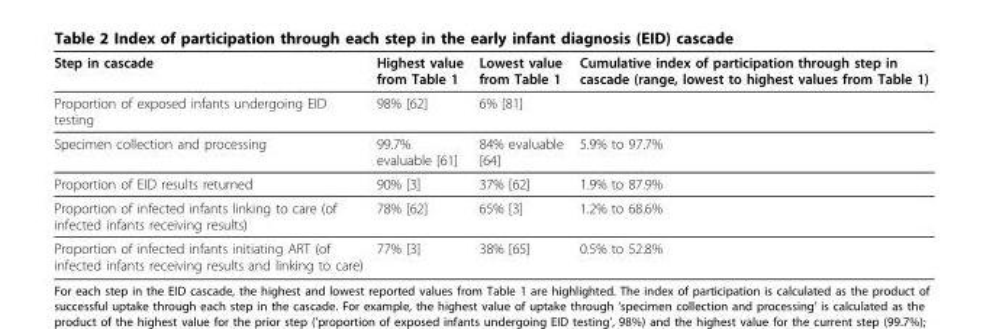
<table><thead><tr><td>Step in cascade</td><td>Highest value from Table 1</td><td>Lowest value from Table 1</td><td>Cumulative index of participation through step in cascade (range, lowest to highest values from Table 1)</td></tr></thead><tbody><tr><td>Proportion of exposed infants undergoing EID testing</td><td>98% [62]</td><td>6% [81]</td><td></td></tr><tr><td>Specimen collection and processing</td><td>99.7% evaluable [61]</td><td>84% evaluable [64]</td><td>5.9% to 97.7%</td></tr><tr><td>Proportion of EID results returned</td><td>90% [3]</td><td>37% [62]</td><td>1.9% to 87.9%</td></tr><tr><td>Proportion of infected infants linking to care (of infected infants receiving results)</td><td>78% [62]</td><td>65% [3]</td><td>1.2% to 68.6%</td></tr><tr><td>Proportion of infected infants initiating ART (of infected infants receiving results and linking to care)</td><td>77% [3]</td><td>38% [65]</td><td>0.5% to 52.8%</td></tr></tbody></table>